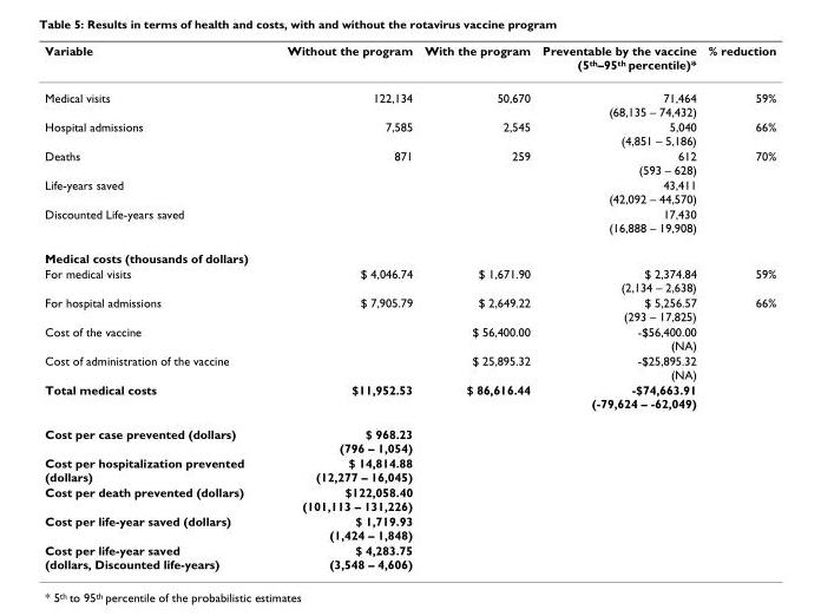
<table><thead><tr><td>Variable</td><td>Without the program</td><td>With the program</td><td>Preventable by the vaccine (5<sup>th</sup>–95<sup>th</sup> percentile)*</td><td>% reduction</td></tr></thead><tbody><tr><td>Medical visits</td><td>122,134</td><td>50,670</td><td>71,464 (68,135 – 74,432)</td><td>59%</td></tr><tr><td>Hospital admissions</td><td>7,585</td><td>2,545</td><td>5,040 (4,851 – 5,186)</td><td>66%</td></tr><tr><td>Deaths</td><td>871</td><td>259</td><td>612 (593 – 628)</td><td>70%</td></tr><tr><td>Life-years saved</td><td></td><td></td><td>43,411 (42,092 – 44,570)</td><td></td></tr><tr><td>Discounted Life-years saved</td><td></td><td></td><td>17,430 (16,888 – 19,908)</td><td></td></tr><tr><td colspan="5">Medical costs (thousands of dollars)</td></tr><tr><td>For medical visits</td><td>$ 4,046.74</td><td>$ 1,671.90</td><td>$ 2,374.84 (2,134 – 2,638)</td><td>59%</td></tr><tr><td>For hospital admissions</td><td>$ 7,905.79</td><td>$ 2,649.22</td><td>$ 5,256.57 (293 – 17,825)</td><td>66%</td></tr><tr><td>Cost of the vaccine</td><td></td><td>$ 56,400.00</td><td>-$56,400.00 (NA)</td><td></td></tr><tr><td>Cost of administration of the vaccine</td><td></td><td>$ 25,895.32</td><td>-$25,895.32 (NA)</td><td></td></tr><tr><td>Total medical costs</td><td>$11,952.53</td><td>$ 86,616.44</td><td>-$74,663.91 (-79,624 – -62,049)</td><td></td></tr><tr><td>Cost per case prevented (dollars)</td><td>$ 968.23 (796 – 1,054)</td><td></td><td></td><td></td></tr><tr><td>Cost per hospitalization prevented (dollars)</td><td>$ 14,814.88 (12,277 – 16,045)</td><td></td><td></td><td></td></tr><tr><td>Cost per death prevented (dollars)</td><td>$122,058.40 (101,113 – 131,226)</td><td></td><td></td><td></td></tr><tr><td>Cost per life-year saved (dollars)</td><td>$ 1,719.93 (1,424 – 1,848)</td><td></td><td></td><td></td></tr><tr><td>Cost per life-year saved (dollars, Discounted life-years)</td><td>$ 4,283.75 (3,548 – 4,606)</td><td></td><td></td><td></td></tr></tbody></table>